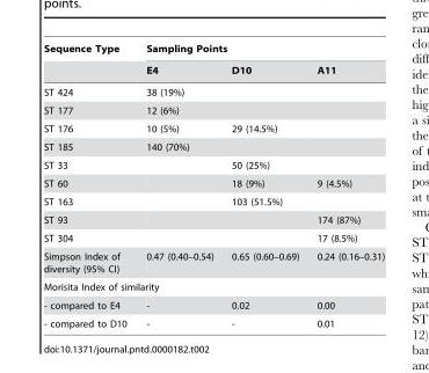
<table><thead><tr><td rowspan="2">Sequence Type</td><td colspan="3">Sampling Points</td></tr><tr><td>E4</td><td>D10</td><td>A11</td></tr></thead><tbody><tr><td>ST 424</td><td>38 (19%)</td><td></td><td></td></tr><tr><td>ST 177</td><td>12 (6%)</td><td></td><td></td></tr><tr><td>ST 176</td><td>10 (5%)</td><td>29 (14.5%)</td><td></td></tr><tr><td>ST 185</td><td>140 (70%)</td><td></td><td></td></tr><tr><td>ST 33</td><td></td><td>50 (25%)</td><td></td></tr><tr><td>ST 60</td><td></td><td>18 (9%)</td><td>9 (4.5%)</td></tr><tr><td>ST 163</td><td></td><td>103 (51.5%)</td><td></td></tr><tr><td>ST 93</td><td></td><td></td><td>174 (87%)</td></tr><tr><td>ST 304</td><td></td><td></td><td>17 (8.5%)</td></tr><tr><td>Simpson Index of diversity (95% CI)</td><td>0.47 (0.40–0.54)</td><td>0.65 (0.60–0.69)</td><td>0.24 (0.16–0.31)</td></tr><tr><td colspan="4">Morisita Index of similarity</td></tr><tr><td>- compared to E4</td><td>-</td><td>0.02</td><td>0.00</td></tr><tr><td>- compared to D10</td><td>-</td><td>-</td><td>0.01</td></tr></tbody></table>